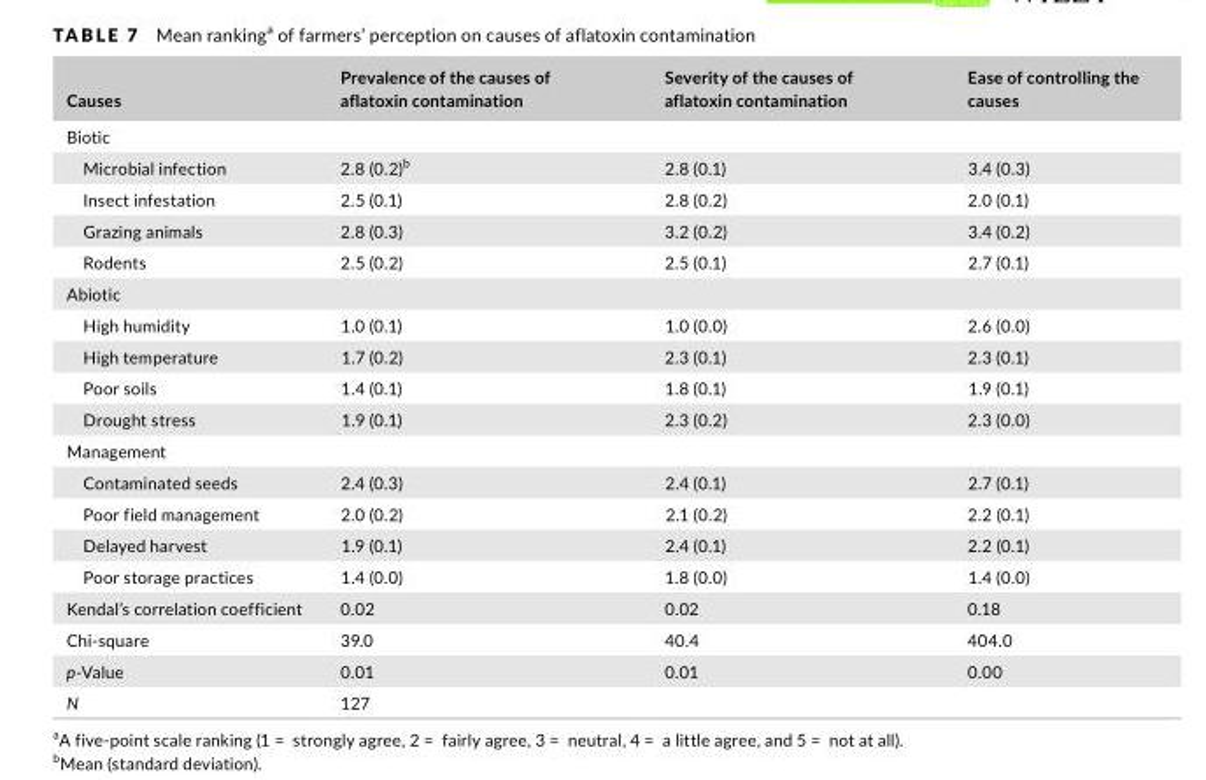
<table><thead><tr><td>Causes</td><td>Prevalence of the causes of aflatoxin contamination</td><td>Severity of the causes of aflatoxin contamination</td><td>Ease of controlling the causes</td></tr></thead><tbody><tr><td colspan="4">Biotic</td></tr><tr><td>Microbial infection</td><td>2.8 (0.2)<sup>b</sup></td><td>2.8 (0.1)</td><td>3.4 (0.3)</td></tr><tr><td>Insect infestation</td><td>2.5 (0.1)</td><td>2.8 (0.2)</td><td>2.0 (0.1)</td></tr><tr><td>Grazing animals</td><td>2.8 (0.3)</td><td>3.2 (0.2)</td><td>3.4 (0.2)</td></tr><tr><td>Rodents</td><td>2.5 (0.2)</td><td>2.5 (0.1)</td><td>2.7 (0.1)</td></tr><tr><td colspan="4">Abiotic</td></tr><tr><td>High humidity</td><td>1.0 (0.1)</td><td>1.0 (0.0)</td><td>2.6 (0.0)</td></tr><tr><td>High temperature</td><td>1.7 (0.2)</td><td>2.3 (0.1)</td><td>2.3 (0.1)</td></tr><tr><td>Poor soils</td><td>1.4 (0.1)</td><td>1.8 (0.1)</td><td>1.9 (0.1)</td></tr><tr><td>Drought stress</td><td>1.9 (0.1)</td><td>2.3 (0.2)</td><td>2.3 (0.0)</td></tr><tr><td colspan="4">Management</td></tr><tr><td>Contaminated seeds</td><td>2.4 (0.3)</td><td>2.4 (0.1)</td><td>2.7 (0.1)</td></tr><tr><td>Poor field management</td><td>2.0 (0.2)</td><td>2.1 (0.2)</td><td>2.2 (0.1)</td></tr><tr><td>Delayed harvest</td><td>1.9 (0.1)</td><td>2.4 (0.1)</td><td>2.2 (0.1)</td></tr><tr><td>Poor storage practices</td><td>1.4 (0.0)</td><td>1.8 (0.0)</td><td>1.4 (0.0)</td></tr><tr><td>Kendal’s correlation coefficient</td><td>0.02</td><td>0.02</td><td>0.18</td></tr><tr><td>Chi- square</td><td>39.0</td><td>40.4</td><td>404.0</td></tr><tr><td>p- Value</td><td>0.01</td><td>0.01</td><td>0.00</td></tr><tr><td>N</td><td colspan="3">127</td></tr></tbody></table>